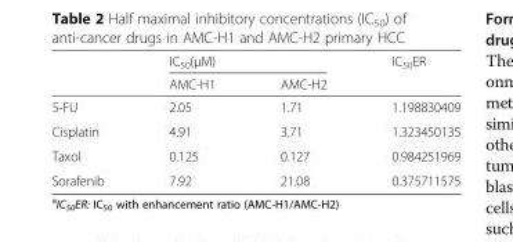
<table><thead><tr><td rowspan="2"></td><td colspan="2">IC<sub>50</sub>(μM)</td><td rowspan="2">IC<sub>50</sub>ER</td></tr><tr><td>AMC-H1</td><td>AMC-H2</td></tr></thead><tbody><tr><td>5-FU</td><td>2.05</td><td>1.71</td><td>1.198830409</td></tr><tr><td>Cisplatin</td><td>4.91</td><td>3.71</td><td>1.323450135</td></tr><tr><td>Taxol</td><td>0.125</td><td>0.127</td><td>0.984251969</td></tr><tr><td>Sorafenib</td><td>7.92</td><td>21.08</td><td>0.375711575</td></tr></tbody></table>